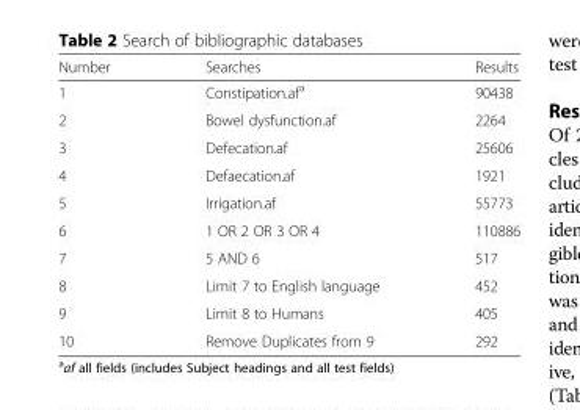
<table><thead><tr><td>Number</td><td>Searches</td><td>Results</td></tr></thead><tbody><tr><td>1</td><td>Constipation.af<sup>a</sup></td><td>90438</td></tr><tr><td>2</td><td>Bowel dysfunction.af</td><td>2264</td></tr><tr><td>3</td><td>Defecation.af</td><td>25606</td></tr><tr><td>4</td><td>Defaecation.af</td><td>1921</td></tr><tr><td>5</td><td>Irrigation.af</td><td>55773</td></tr><tr><td>6</td><td>1 OR 2 OR 3 OR 4</td><td>110886</td></tr><tr><td>7</td><td>5 AND 6</td><td>517</td></tr><tr><td>8</td><td>Limit 7 to English language</td><td>452</td></tr><tr><td>9</td><td>Limit 8 to Humans</td><td>405</td></tr><tr><td>10</td><td>Remove Duplicates from 9</td><td>292</td></tr></tbody></table>